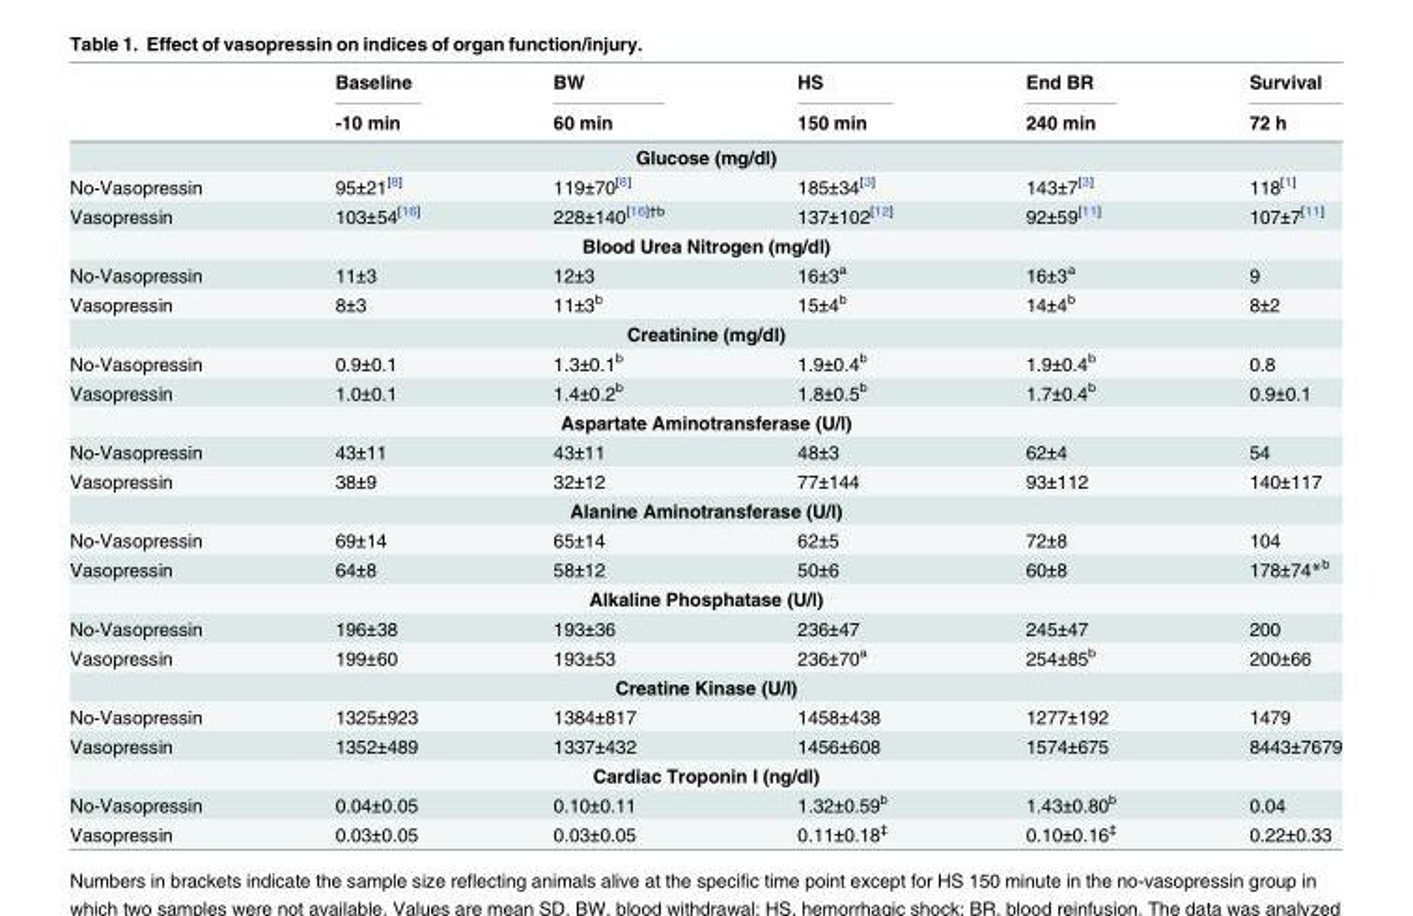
<table><thead><tr><td rowspan="2"></td><td rowspan="2">Baseline -10 min</td><td rowspan="2">BW 60 min</td><td rowspan="2">HS 150 min</td><td rowspan="2">End BR 240 min</td><td rowspan="2">Survival 72 h</td></tr><tr></tr></thead><tbody><tr><td colspan="6">Glucose (mg/dl)</td></tr><tr><td>No-Vasopressin</td><td>95±21<sup>[8]</sup></td><td>119±70<sup>[8]</sup></td><td>185±34<sup>[3]</sup></td><td>143±7<sup>[3]</sup></td><td>118<sup>[1]</sup></td></tr><tr><td>Vasopressin</td><td>103±54<sup>[16]</sup></td><td>228±140<sup>[16]†b</sup></td><td>137±102<sup>[12]</sup></td><td>92±59<sup>[11]</sup></td><td>107±7<sup>[11]</sup></td></tr><tr><td colspan="6">Blood Urea Nitrogen (mg/dl)</td></tr><tr><td>No-Vasopressin</td><td>11±3</td><td>12±3</td><td>16±3<sup>a</sup></td><td>16±3<sup>a</sup></td><td>9</td></tr><tr><td>Vasopressin</td><td>8±3</td><td>11±3<sup>b</sup></td><td>15±4<sup>b</sup></td><td>14±4<sup>b</sup></td><td>8±2</td></tr><tr><td colspan="6">Creatinine (mg/dl)</td></tr><tr><td>No-Vasopressin</td><td>0.9±0.1</td><td>1.3±0.1<sup>b</sup></td><td>1.9±0.4<sup>b</sup></td><td>1.9±0.4<sup>b</sup></td><td>0.8</td></tr><tr><td>Vasopressin</td><td>1.0±0.1</td><td>1.4±0.2<sup>b</sup></td><td>1.8±0.5<sup>b</sup></td><td>1.7±0.4<sup>b</sup></td><td>0.9±0.1</td></tr><tr><td colspan="6">Aspartate Aminotransferase (U/l)</td></tr><tr><td>No-Vasopressin</td><td>43±11</td><td>43±11</td><td>48±3</td><td>62±4</td><td>54</td></tr><tr><td>Vasopressin</td><td>38±9</td><td>32±12</td><td>77±144</td><td>93±112</td><td>140±117</td></tr><tr><td colspan="6">Alanine Aminotransferase (U/l)</td></tr><tr><td>No-Vasopressin</td><td>69±14</td><td>65±14</td><td>62±5</td><td>72±8</td><td>104</td></tr><tr><td>Vasopressin</td><td>64±8</td><td>58±12</td><td>50±6</td><td>60±8</td><td>178±74*<sup>b</sup></td></tr><tr><td colspan="6">Alkaline Phosphatase (U/l)</td></tr><tr><td>No-Vasopressin</td><td>196±38</td><td>193±36</td><td>236±47</td><td>245±47</td><td>200</td></tr><tr><td>Vasopressin</td><td>199±60</td><td>193±53</td><td>236±70<sup>a</sup></td><td>254±85<sup>b</sup></td><td>200±66</td></tr><tr><td colspan="6">Creatine Kinase (U/l)</td></tr><tr><td>No-Vasopressin</td><td>1325±923</td><td>1384±817</td><td>1458±438</td><td>1277±192</td><td>1479</td></tr><tr><td>Vasopressin</td><td>1352±489</td><td>1337±432</td><td>1456±608</td><td>1574±675</td><td>8443±7679</td></tr><tr><td colspan="6">Cardiac Troponin I (ng/dl)</td></tr><tr><td>No-Vasopressin</td><td>0.04±0.05</td><td>0.10±0.11</td><td>1.32±0.59<sup>b</sup></td><td>1.43±0.80<sup>b</sup></td><td>0.04</td></tr><tr><td>Vasopressin</td><td>0.03±0.05</td><td>0.03±0.05</td><td>0.11±0.18<sup>‡</sup></td><td>0.10±0.16<sup>‡</sup></td><td>0.22±0.33</td></tr></tbody></table>